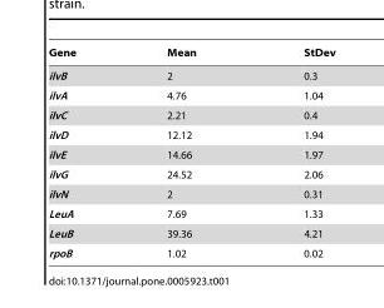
<table><thead><tr><td>Gene</td><td>Mean</td><td>StDev</td></tr></thead><tbody><tr><td>ilvB</td><td>2</td><td>0.3</td></tr><tr><td>ilvA</td><td>4.76</td><td>1.04</td></tr><tr><td>ilvC</td><td>2.21</td><td>0.4</td></tr><tr><td>ilvD</td><td>12.12</td><td>1.94</td></tr><tr><td>ilvE</td><td>14.66</td><td>1.97</td></tr><tr><td>ilvG</td><td>24.52</td><td>2.06</td></tr><tr><td>ilvN</td><td>2</td><td>0.31</td></tr><tr><td>LeuA</td><td>7.69</td><td>1.33</td></tr><tr><td>LeuB</td><td>39.36</td><td>4.21</td></tr><tr><td>rpoB</td><td>1.02</td><td>0.02</td></tr></tbody></table>